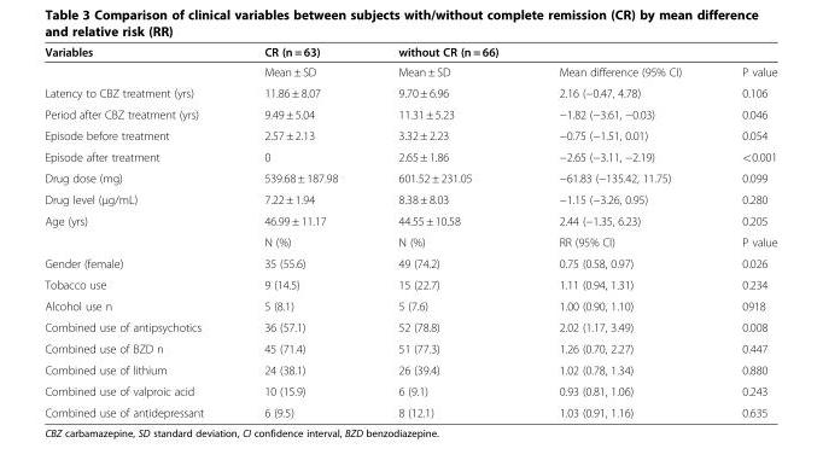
<table><thead><tr><td>Variables</td><td>CR (n = 63)</td><td>without CR (n = 66)</td><td></td><td></td></tr></thead><tbody><tr><td></td><td>Mean ± SD</td><td>Mean ± SD</td><td>Mean difference (95% CI)</td><td>P value</td></tr><tr><td>Latency to CBZ treatment (yrs)</td><td>11.86 ± 8.07</td><td>9.70 ± 6.96</td><td>2.16 (−0.47, 4.78)</td><td>0.106</td></tr><tr><td>Period after CBZ treatment (yrs)</td><td>9.49 ± 5.04</td><td>11.31 ± 5.23</td><td>−1.82 (−3.61, −0.03)</td><td>0.046</td></tr><tr><td>Episode before treatment</td><td>2.57 ± 2.13</td><td>3.32 ± 2.23</td><td>−0.75 (−1.51, 0.01)</td><td>0.054</td></tr><tr><td>Episode after treatment</td><td>0</td><td>2.65 ± 1.86</td><td>−2.65 (−3.11, −2.19)</td><td>&lt;0.001</td></tr><tr><td>Drug dose (mg)</td><td>539.68 ± 187.98</td><td>601.52 ± 231.05</td><td>−61.83 (−135.42, 11.75)</td><td>0.099</td></tr><tr><td>Drug level (μg/mL)</td><td>7.22 ± 1.94</td><td>8.38 ± 8.03</td><td>−1.15 (−3.26, 0.95)</td><td>0.280</td></tr><tr><td rowspan="2">Age (yrs)</td><td>46.99 ± 11.17</td><td>44.55 ± 10.58</td><td>2.44 (−1.35, 6.23)</td><td>0.205</td></tr><tr><td>N (%)</td><td>N (%)</td><td>RR (95% CI)</td><td>P value</td></tr><tr><td>Gender (female)</td><td>35 (55.6)</td><td>49 (74.2)</td><td>0.75 (0.58, 0.97)</td><td>0.026</td></tr><tr><td>Tobacco use</td><td>9 (14.5)</td><td>15 (22.7)</td><td>1.11 (0.94, 1.31)</td><td>0.234</td></tr><tr><td>Alcohol use n</td><td>5 (8.1)</td><td>5 (7.6)</td><td>1.00 (0.90, 1.10)</td><td>0918</td></tr><tr><td>Combined use of antipsychotics</td><td>36 (57.1)</td><td>52 (78.8)</td><td>2.02 (1.17, 3.49)</td><td>0.008</td></tr><tr><td>Combined use of BZD n</td><td>45 (71.4)</td><td>51 (77.3)</td><td>1.26 (0.70, 2.27)</td><td>0.447</td></tr><tr><td>Combined use of lithium</td><td>24 (38.1)</td><td>26 (39.4)</td><td>1.02 (0.78, 1.34)</td><td>0.880</td></tr><tr><td>Combined use of valproic acid</td><td>10 (15.9)</td><td>6 (9.1)</td><td>0.93 (0.81, 1.06)</td><td>0.243</td></tr><tr><td>Combined use of antidepressant</td><td>6 (9.5)</td><td>8 (12.1)</td><td>1.03 (0.91, 1.16)</td><td>0.635</td></tr></tbody></table>